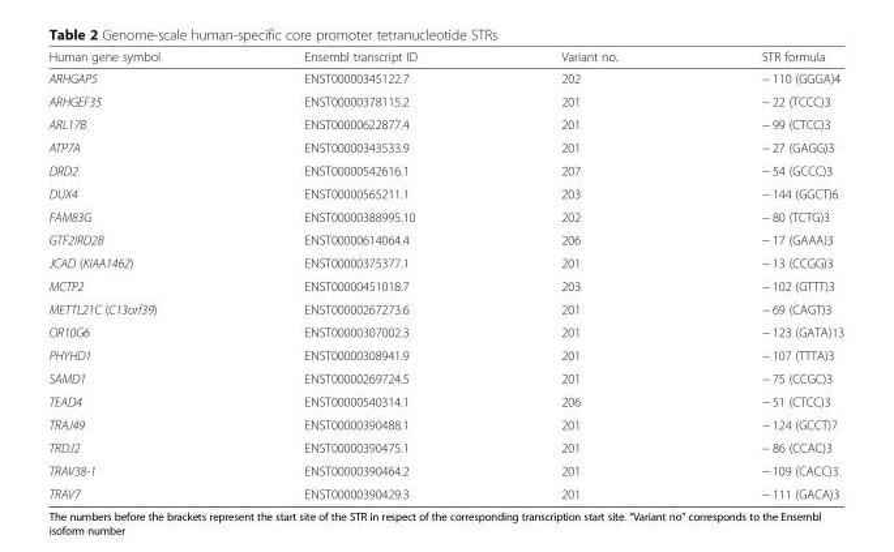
<table><thead><tr><td>Human gene symbol</td><td>Ensembl transcript ID</td><td>Variant no.</td><td>STR formula</td></tr></thead><tbody><tr><td>ARHGAP5</td><td>ENST00000345122.7</td><td>202</td><td>− 110 (GGGA)4</td></tr><tr><td>ARHGEF35</td><td>ENST00000378115.2</td><td>201</td><td>− 22 (TCCC)3</td></tr><tr><td>ARL17B</td><td>ENST00000622877.4</td><td>201</td><td>− 99 (CTCC)3</td></tr><tr><td>ATP7A</td><td>ENST00000343533.9</td><td>201</td><td>− 27 (GAGG)3</td></tr><tr><td>DRD2</td><td>ENST00000542616.1</td><td>207</td><td>− 54 (GCCC)3</td></tr><tr><td>DUX4</td><td>ENST00000565211.1</td><td>203</td><td>− 144 (GGCT)6</td></tr><tr><td>FAM83G</td><td>ENST00000388995.10</td><td>202</td><td>− 80 (TCTG)3</td></tr><tr><td>GTF2IRD2B</td><td>ENST00000614064.4</td><td>206</td><td>− 17 (GAAA)3</td></tr><tr><td>JCAD (KIAA1462)</td><td>ENST00000375377.1</td><td>201</td><td>− 13 (CCGG)3</td></tr><tr><td>MCTP2</td><td>ENST00000451018.7</td><td>203</td><td>− 102 (GTTT)3</td></tr><tr><td>METTL21C (C13orf39)</td><td>ENST00000267273.6</td><td>201</td><td>− 69 (CAGT)3</td></tr><tr><td>OR10G6</td><td>ENST00000307002.3</td><td>201</td><td>− 123 (GATA)13</td></tr><tr><td>PHYHD1</td><td>ENST00000308941.9</td><td>201</td><td>− 107 (TTTA)3</td></tr><tr><td>SAMD1</td><td>ENST00000269724.5</td><td>201</td><td>− 75 (CCGC)3</td></tr><tr><td>TEAD4</td><td>ENST00000540314.1</td><td>206</td><td>− 51 (CTCC)3</td></tr><tr><td>TRAJ49</td><td>ENST00000390488.1</td><td>201</td><td>− 124 (GCCT)7</td></tr><tr><td>TRDJ2</td><td>ENST00000390475.1</td><td>201</td><td>− 86 (CCAC)3</td></tr><tr><td>TRAV38-1</td><td>ENST00000390464.2</td><td>201</td><td>− 109 (CACC)3</td></tr><tr><td>TRAV7</td><td>ENST00000390429.3</td><td>201</td><td>− 111 (GACA)3</td></tr></tbody></table>